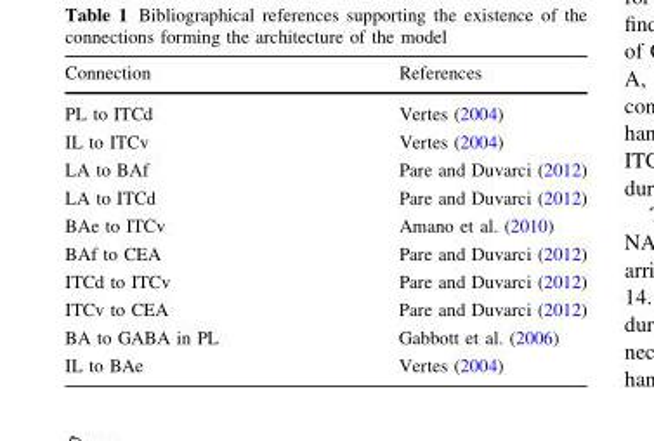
<table><thead><tr><td>Connection</td><td>References</td></tr></thead><tbody><tr><td>PL to ITCd</td><td>Vertes (2004)</td></tr><tr><td>IL to ITCv</td><td>Vertes (2004)</td></tr><tr><td>LA to BAf</td><td>Pare and Duvarci (2012)</td></tr><tr><td>LA to ITCd</td><td>Pare and Duvarci (2012)</td></tr><tr><td>BAe to ITCv</td><td>Amano et al. (2010)</td></tr><tr><td>BAf to CEA</td><td>Pare and Duvarci (2012)</td></tr><tr><td>ITCd to ITCv</td><td>Pare and Duvarci (2012)</td></tr><tr><td>ITCv to CEA</td><td>Pare and Duvarci (2012)</td></tr><tr><td>BA to GABA in PL</td><td>Gabbott et al. (2006)</td></tr><tr><td>IL to BAe</td><td>Vertes (2004)</td></tr></tbody></table>